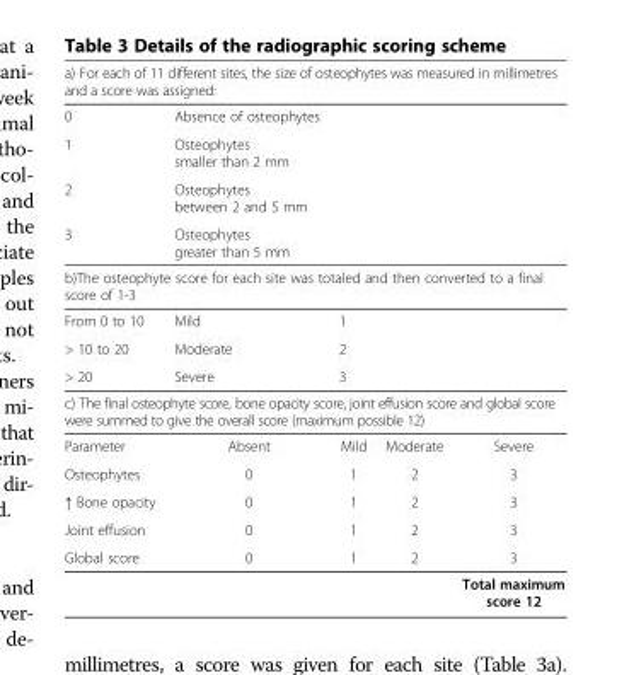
<table><thead><tr><td colspan="5">a) For each of 11 different sites, the size of osteophytes was measured in millimetres and a score was assigned:</td></tr><tr><td>0</td><td>Absence of osteophytes</td><td></td><td></td><td></td></tr></thead><tbody><tr><td>1</td><td>Osteophytes smaller than 2 mm</td><td></td><td></td><td></td></tr><tr><td>2</td><td>Osteophytes between 2 and 5 mm</td><td></td><td></td><td></td></tr><tr><td>3</td><td>Osteophytes greater than 5 mm</td><td></td><td></td><td></td></tr><tr><td colspan="5">b)The osteophyte score for each site was totaled and then converted to a final score of 1-3</td></tr><tr><td>From 0 to 10</td><td>Mild</td><td>1</td><td></td><td></td></tr><tr><td>&gt; 10 to 20</td><td>Moderate</td><td>2</td><td></td><td></td></tr><tr><td>&gt; 20</td><td>Severe</td><td>3</td><td></td><td></td></tr><tr><td colspan="5">c) The final osteophyte score, bone opacity score, joint effusion score and global score were summed to give the overall score (maximum possible 12)</td></tr><tr><td>Parameter</td><td>Absent</td><td>Mild</td><td>Moderate</td><td>Severe</td></tr><tr><td>Osteophytes</td><td>0</td><td>1</td><td>2</td><td>3</td></tr><tr><td>↑ Bone opacity</td><td>0</td><td>1</td><td>2</td><td>3</td></tr><tr><td>Joint effusion</td><td>0</td><td>1</td><td>2</td><td>3</td></tr><tr><td rowspan="2">Global score</td><td>0</td><td>1</td><td>2</td><td>3</td></tr><tr><td></td><td></td><td></td><td>Total maximum score 12</td></tr></tbody></table>